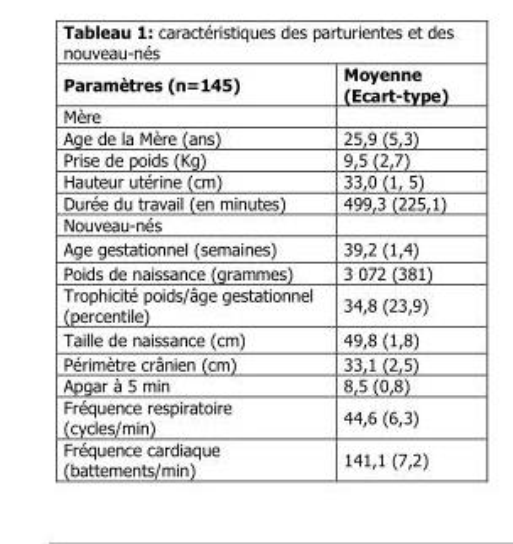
<table><thead><tr><td>Paramètres (n=145)</td><td>Moyenne (Ecart-type)</td></tr></thead><tbody><tr><td colspan="2">Mère</td></tr><tr><td>Age de la Mère (ans)</td><td>25,9 (5,3)</td></tr><tr><td>Prise de poids (Kg)</td><td>9,5 (2,7)</td></tr><tr><td>Hauteur utérine (cm)</td><td>33,0 (1, 5)</td></tr><tr><td>Durée du travail (en minutes)</td><td>499,3 (225,1)</td></tr><tr><td colspan="2">Nouveau-nés</td></tr><tr><td>Age gestationnel (semaines)</td><td>39,2 (1,4)</td></tr><tr><td>Poids de naissance (grammes)</td><td>3 072 (381)</td></tr><tr><td>Trophicité poids/âge gestationnel (percentile)</td><td>34,8 (23,9)</td></tr><tr><td>Taille de naissance (cm)</td><td>49,8 (1,8)</td></tr><tr><td>Périmètre crânien (cm)</td><td>33,1 (2,5)</td></tr><tr><td>Apgar à 5 min</td><td>8,5 (0,8)</td></tr><tr><td>Fréquence respiratoire (cycles/min)</td><td>44,6 (6,3)</td></tr><tr><td>Fréquence cardiaque (battements/min)</td><td>141,1 (7,2)</td></tr></tbody></table>